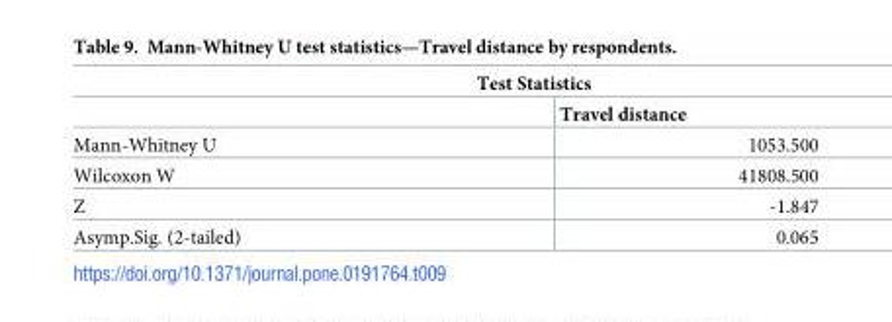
<table><thead><tr><td colspan="2">Test Statistics</td></tr><tr><td></td><td>Travel distance</td></tr></thead><tbody><tr><td>Mann-Whitney U</td><td>1053.500</td></tr><tr><td>Wilcoxon W</td><td>41808.500</td></tr><tr><td>Z</td><td>-1.847</td></tr><tr><td>Asymp.Sig. (2-tailed)</td><td>0.065</td></tr></tbody></table>